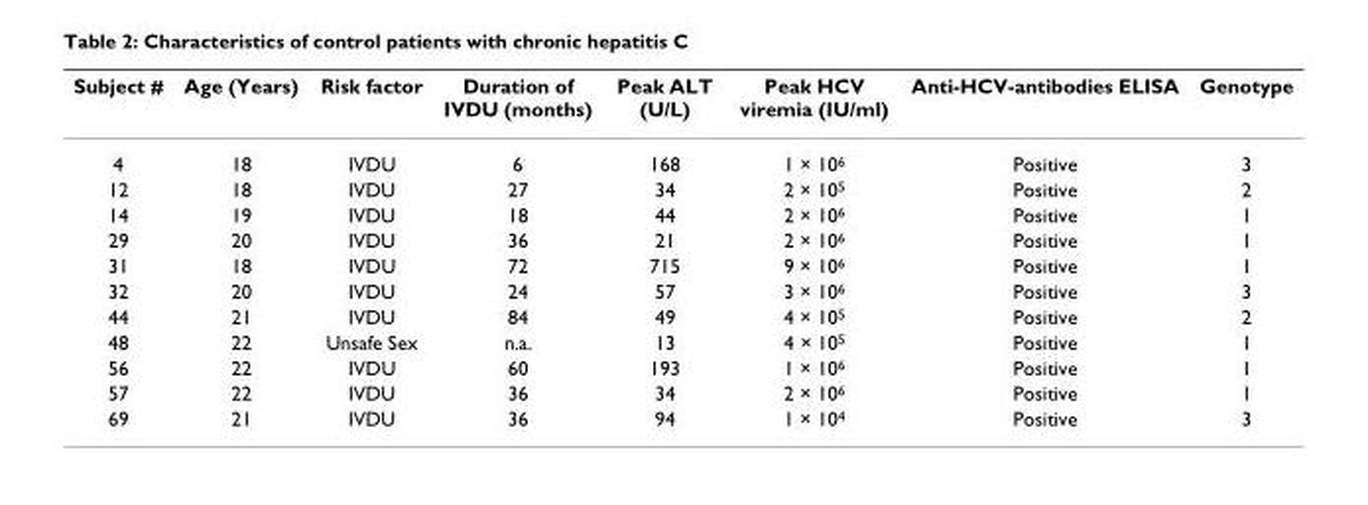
<table><thead><tr><td>Subject #</td><td>Age (Years)</td><td>Risk factor</td><td>Duration of IVDU (months)</td><td>Peak ALT (U/L)</td><td>Peak HCV viremia (IU/ml)</td><td>Anti-HCV-antibodies ELISA</td><td>Genotype</td></tr></thead><tbody><tr><td>4</td><td>18</td><td>IVDU</td><td>6</td><td>168</td><td>1 × 10<sup>6</sup></td><td>Positive</td><td>3</td></tr><tr><td>12</td><td>18</td><td>IVDU</td><td>27</td><td>34</td><td>2 × 10<sup>5</sup></td><td>Positive</td><td>2</td></tr><tr><td>14</td><td>19</td><td>IVDU</td><td>18</td><td>44</td><td>2 × 10<sup>6</sup></td><td>Positive</td><td>1</td></tr><tr><td>29</td><td>20</td><td>IVDU</td><td>36</td><td>21</td><td>2 × 10<sup>6</sup></td><td>Positive</td><td>1</td></tr><tr><td>31</td><td>18</td><td>IVDU</td><td>72</td><td>715</td><td>9 × 10<sup>6</sup></td><td>Positive</td><td>1</td></tr><tr><td>32</td><td>20</td><td>IVDU</td><td>24</td><td>57</td><td>3 × 10<sup>6</sup></td><td>Positive</td><td>3</td></tr><tr><td>44</td><td>21</td><td>IVDU</td><td>84</td><td>49</td><td>4 × 10<sup>5</sup></td><td>Positive</td><td>2</td></tr><tr><td>48</td><td>22</td><td>Unsafe Sex</td><td>n.a.</td><td>13</td><td>4 × 10<sup>5</sup></td><td>Positive</td><td>1</td></tr><tr><td>56</td><td>22</td><td>IVDU</td><td>60</td><td>193</td><td>1 × 10<sup>6</sup></td><td>Positive</td><td>1</td></tr><tr><td>57</td><td>22</td><td>IVDU</td><td>36</td><td>34</td><td>2 × 10<sup>6</sup></td><td>Positive</td><td>1</td></tr><tr><td>69</td><td>21</td><td>IVDU</td><td>36</td><td>94</td><td>1 × 10<sup>4</sup></td><td>Positive</td><td>3</td></tr></tbody></table>